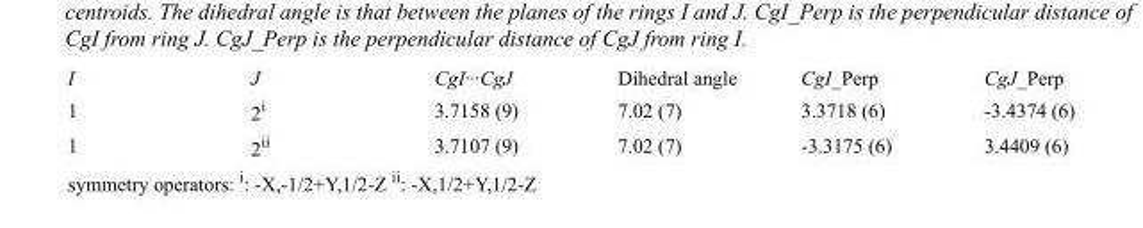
<table><tbody><tr><td>I</td><td>J</td><td>CgI···CgJ</td><td>Dihedral angle</td><td>CgI_Perp</td><td>CgJ_Perp</td></tr><tr><td>1</td><td>2<sup>i</sup></td><td>3.7158 (9)</td><td>7.02 (7)</td><td>3.3718 (6)</td><td>-3.4374 (6)</td></tr><tr><td>1</td><td>2<sup>ii</sup></td><td>3.7107 (9)</td><td>7.02 (7)</td><td>-3.3175 (6)</td><td>3.4409 (6)</td></tr></tbody></table>